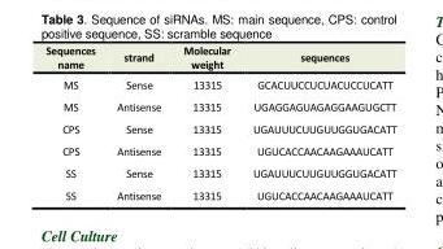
<table><tbody><tr><td>Sequences name</td><td>strand</td><td>Molecular weight</td><td>sequences</td></tr><tr><td>MS</td><td>Sense</td><td>13315</td><td>GCACUUCCUCUACUCCUCATT</td></tr><tr><td>MS</td><td>Antisense</td><td>13315</td><td>UGAGGAGUAGAGGAAGUGCTT</td></tr><tr><td>CPS</td><td>Sense</td><td>13315</td><td>UGAUUUCUUGUUGGUGACATT</td></tr><tr><td>CPS</td><td>Antisense</td><td>13315</td><td>UGUCACCAACAAGAAAUCATT</td></tr><tr><td>SS</td><td>Sense</td><td>13315</td><td>UGAUUUCUUGUUGGUGACATT</td></tr><tr><td>SS</td><td>Antisense</td><td>13315</td><td>UGUCACCAACAAGAAAUCATT</td></tr></tbody></table>